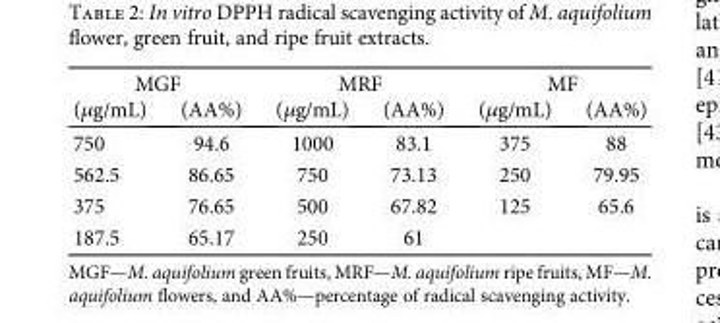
<table><thead><tr><td colspan="2">MGF</td><td colspan="2">MRF</td><td colspan="2">MF</td></tr><tr><td>(μg/mL)</td><td>(AA%)</td><td>(μg/mL)</td><td>(AA%)</td><td>(μg/mL)</td><td>(AA%)</td></tr></thead><tbody><tr><td>750</td><td>94.6</td><td>1000</td><td>83.1</td><td>375</td><td>88</td></tr><tr><td>562.5</td><td>86.65</td><td>750</td><td>73.13</td><td>250</td><td>79.95</td></tr><tr><td>375</td><td>76.65</td><td>500</td><td>67.82</td><td>125</td><td>65.6</td></tr><tr><td>187.5</td><td>65.17</td><td>250</td><td>61</td><td></td><td></td></tr></tbody></table>